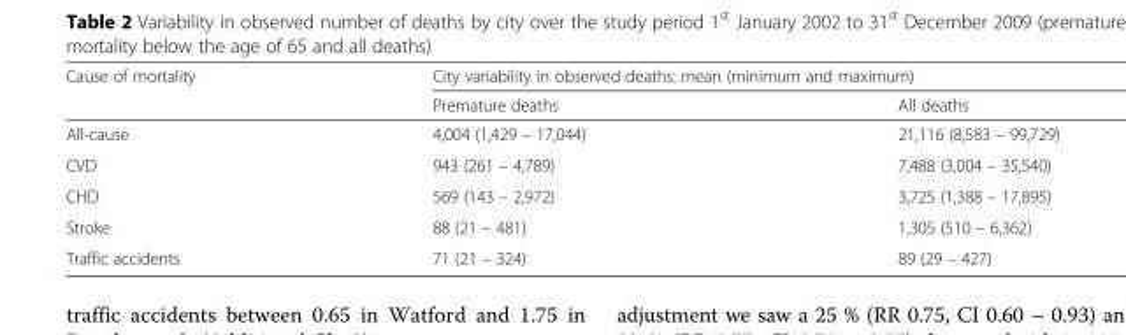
<table><thead><tr><td rowspan="2">Cause of mortality</td><td colspan="2">City variability in observed deaths: mean (minimum and maximum)</td></tr><tr><td>Premature deaths</td><td>All deaths</td></tr></thead><tbody><tr><td>All-cause</td><td>4,004 (1,429 – 17,044)</td><td>21,116 (8,583 – 99,729)</td></tr><tr><td>CVD</td><td>943 (261 – 4,789)</td><td>7,488 (3,004 – 35,540)</td></tr><tr><td>CHD</td><td>569 (143 – 2,972)</td><td>3,725 (1,388 – 17,895)</td></tr><tr><td>Stroke</td><td>88 (21 – 481)</td><td>1,305 (510 – 6,362)</td></tr><tr><td>Traffic accidents</td><td>71 (21 – 324)</td><td>89 (29 – 427)</td></tr></tbody></table>